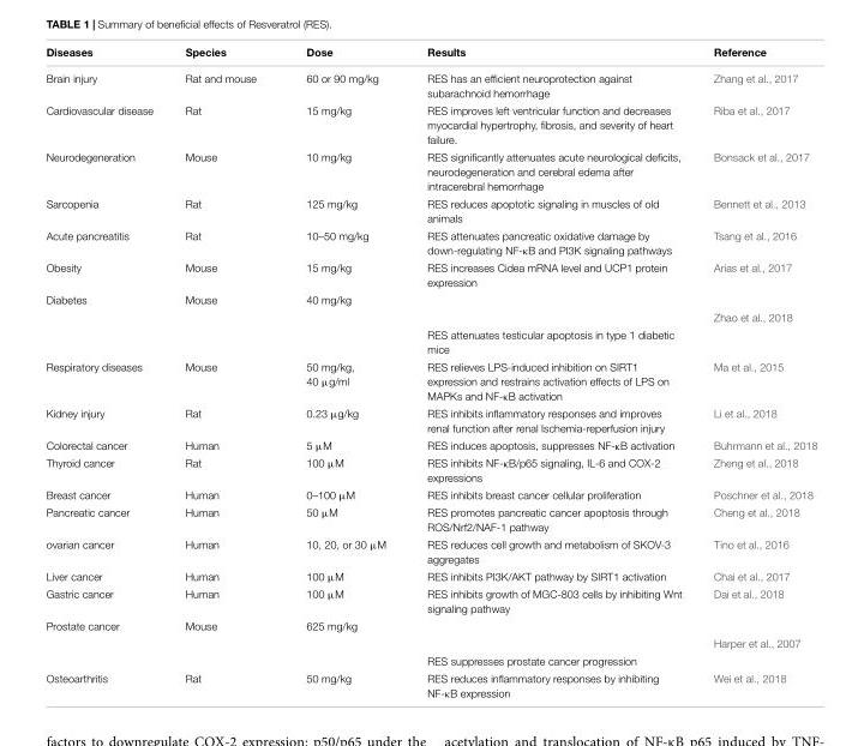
<table><thead><tr><td>Diseases</td><td>Species</td><td>Dose</td><td>Results</td><td>Reference</td></tr></thead><tbody><tr><td>Brain injury</td><td>Rat and mouse</td><td>60 or 90 mg/kg</td><td>RES has an efficient neuroprotection against subarachnoid hemorrhage</td><td>Zhang et al., 2017</td></tr><tr><td>Cardiovascular disease</td><td>Rat</td><td>15 mg/kg</td><td>RES improves left ventricular function and decreases myocardial hypertrophy, fibrosis, and severity of heart failure.</td><td>Riba et al., 2017</td></tr><tr><td>Neurodegeneration</td><td>Mouse</td><td>10 mg/kg</td><td>RES significantly attenuates acute neurological deficits, neurodegeneration and cerebral edema after intracerebral hemorrhage</td><td>Bonsack et al., 2017</td></tr><tr><td>Sarcopenia</td><td>Rat</td><td>125 mg/kg</td><td>RES reduces apoptotic signaling in muscles of old animals</td><td>Bennett et al., 2013</td></tr><tr><td>Acute pancreatitis</td><td>Rat</td><td>10–50 mg/kg</td><td>RES attenuates pancreatic oxidative damage by down-regulating NF-κB and PI3K signaling pathways</td><td>Tsang et al., 2016</td></tr><tr><td>Obesity</td><td>Mouse</td><td>15 mg/kg</td><td>RES increases Cidea mRNA level and UCP1 protein expression</td><td>Arias et al., 2017</td></tr><tr><td rowspan="3">Diabetes</td><td>Mouse</td><td>40 mg/kg</td><td></td><td></td></tr><tr><td></td><td></td><td></td><td>Zhao et al., 2018</td></tr><tr><td></td><td></td><td>RES attenuates testicular apoptosis in type 1 diabetic mice</td><td></td></tr><tr><td>Respiratory diseases</td><td>Mouse</td><td>50 mg/kg, 40 µg/ml</td><td>RES relieves LPS-induced inhibition on SIRT1 expression and restrains activation effects of LPS on MAPKs and NF-κB activation</td><td>Ma et al., 2015</td></tr><tr><td>Kidney injury</td><td>Rat</td><td>0.23 µg/kg</td><td>RES inhibits inflammatory responses and improves renal function after renal Ischemia-reperfusion injury</td><td>Li et al., 2018</td></tr><tr><td>Colorectal cancer</td><td>Human</td><td>5 µM</td><td>RES induces apoptosis, suppresses NF-κB activation</td><td>Buhrmann et al., 2018</td></tr><tr><td>Thyroid cancer</td><td>Rat</td><td>100 µM</td><td>RES inhibits NF-κB/p65 signaling, IL-6 and COX-2 expressions</td><td>Zheng et al., 2018</td></tr><tr><td>Breast cancer</td><td>Human</td><td>0–100 µM</td><td>RES inhibits breast cancer cellular proliferation</td><td>Poschner et al., 2018</td></tr><tr><td>Pancreatic cancer</td><td>Human</td><td>50 µM</td><td>RES promotes pancreatic cancer apoptosis through ROS/Nrf2/NAF-1 pathway</td><td>Cheng et al., 2018</td></tr><tr><td>ovarian cancer</td><td>Human</td><td>10, 20, or 30 µM</td><td>RES reduces cell growth and metabolism of SKOV-3 aggregates</td><td>Tino et al., 2016</td></tr><tr><td>Liver cancer</td><td>Human</td><td>100 µM</td><td>RES inhibits PI3K/AKT pathway by SIRT1 activation</td><td>Chai et al., 2017</td></tr><tr><td>Gastric cancer</td><td>Human</td><td>100 µM</td><td>RES inhibits growth of MGC-803 cells by inhibiting Wnt signaling pathway</td><td>Dai et al., 2018</td></tr><tr><td rowspan="3">Prostate cancer</td><td>Mouse</td><td>625 mg/kg</td><td></td><td></td></tr><tr><td></td><td></td><td></td><td>Harper et al., 2007</td></tr><tr><td></td><td></td><td>RES suppresses prostate cancer progression</td><td></td></tr><tr><td>Osteoarthritis</td><td>Rat</td><td>50 mg/kg</td><td>RES reduces inflammatory responses by inhibiting NF-κB expression</td><td>Wei et al., 2018</td></tr></tbody></table>